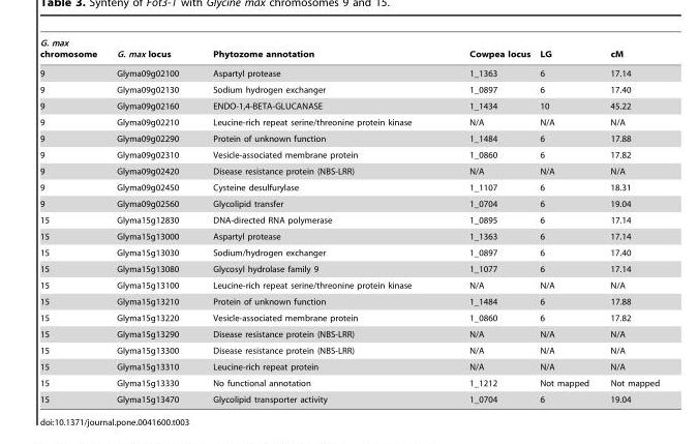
<table><thead><tr><td>G. max chromosome</td><td>G. max locus</td><td>Phytozome annotation</td><td>Cowpea locus</td><td>LG</td><td>cM</td></tr></thead><tbody><tr><td>9</td><td>Glyma09g02100</td><td>Aspartyl protease</td><td>1_1363</td><td>6</td><td>17.14</td></tr><tr><td>9</td><td>Glyma09g02130</td><td>Sodium hydrogen exchanger</td><td>1_0897</td><td>6</td><td>17.40</td></tr><tr><td>9</td><td>Glyma09g02160</td><td>ENDO-1,4-BETA-GLUCANASE</td><td>1_1434</td><td>10</td><td>45.22</td></tr><tr><td>9</td><td>Glyma09g02210</td><td>Leucine-rich repeat serine/threonine protein kinase</td><td>N/A</td><td>N/A</td><td>N/A</td></tr><tr><td>9</td><td>Glyma09g02290</td><td>Protein of unknown function</td><td>1_1484</td><td>6</td><td>17.88</td></tr><tr><td>9</td><td>Glyma09g02310</td><td>Vesicle-associated membrane protein</td><td>1_0860</td><td>6</td><td>17.82</td></tr><tr><td>9</td><td>Glyma09g02420</td><td>Disease resistance protein (NBS-LRR)</td><td>N/A</td><td>N/A</td><td>N/A</td></tr><tr><td>9</td><td>Glyma09g02450</td><td>Cysteine desulfurylase</td><td>1_1107</td><td>6</td><td>18.31</td></tr><tr><td>9</td><td>Glyma09g02560</td><td>Glycolipid transfer</td><td>1_0704</td><td>6</td><td>19.04</td></tr><tr><td>15</td><td>Glyma15g12830</td><td>DNA-directed RNA polymerase</td><td>1_0895</td><td>6</td><td>17.14</td></tr><tr><td>15</td><td>Glyma15g13000</td><td>Aspartyl protease</td><td>1_1363</td><td>6</td><td>17.14</td></tr><tr><td>15</td><td>Glyma15g13030</td><td>Sodium/hydrogen exchanger</td><td>1_0897</td><td>6</td><td>17.40</td></tr><tr><td>15</td><td>Glyma15g13080</td><td>Glycosyl hydrolase family 9</td><td>1_1077</td><td>6</td><td>17.14</td></tr><tr><td>15</td><td>Glyma15g13100</td><td>Leucine-rich repeat serine/threonine protein kinase</td><td>N/A</td><td>N/A</td><td>N/A</td></tr><tr><td>15</td><td>Glyma15g13210</td><td>Protein of unknown function</td><td>1_1484</td><td>6</td><td>17.88</td></tr><tr><td>15</td><td>Glyma15g13220</td><td>Vesicle-associated membrane protein</td><td>1_0860</td><td>6</td><td>17.82</td></tr><tr><td>15</td><td>Glyma15g13290</td><td>Disease resistance protein (NBS-LRR)</td><td>N/A</td><td>N/A</td><td>N/A</td></tr><tr><td>15</td><td>Glyma15g13300</td><td>Disease resistance protein (NBS-LRR)</td><td>N/A</td><td>N/A</td><td>N/A</td></tr><tr><td>15</td><td>Glyma15g13310</td><td>Leucine-rich repeat protein</td><td>N/A</td><td>N/A</td><td>N/A</td></tr><tr><td>15</td><td>Glyma15g13330</td><td>No functional annotation</td><td>1_1212</td><td>Not mapped</td><td>Not mapped</td></tr><tr><td>15</td><td>Glyma15g13470</td><td>Glycolipid transporter activity</td><td>1_0704</td><td>6</td><td>19.04</td></tr></tbody></table>